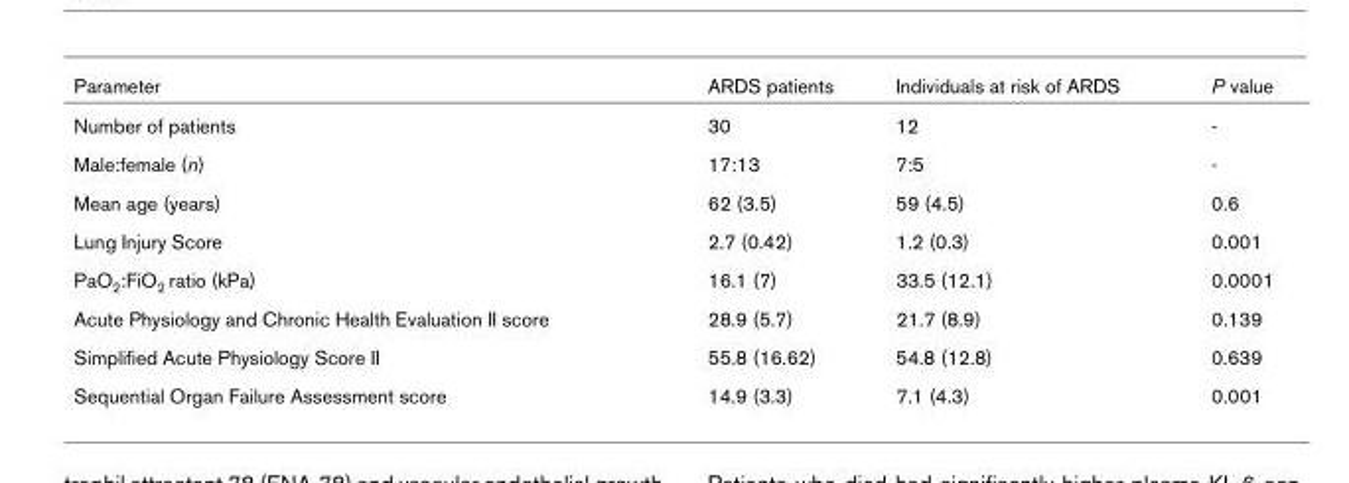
<table><thead><tr><td>Parameter</td><td>ARDS patients</td><td>Individuals at risk of ARDS</td><td>P value</td></tr></thead><tbody><tr><td>Number of patients</td><td>30</td><td>12</td><td>-</td></tr><tr><td>Male:female (n)</td><td>17:13</td><td>7:5</td><td>-</td></tr><tr><td>Mean age (years)</td><td>62 (3.5)</td><td>59 (4.5)</td><td>0.6</td></tr><tr><td>Lung Injury Score</td><td>2.7 (0.42)</td><td>1.2 (0.3)</td><td>0.001</td></tr><tr><td>PaO<sub>2</sub>:FiO<sub>2</sub> ratio (kPa)</td><td>16.1 (7)</td><td>33.5 (12.1)</td><td>0.0001</td></tr><tr><td>Acute Physiology and Chronic Health Evaluation II score</td><td>28.9 (5.7)</td><td>21.7 (8.9)</td><td>0.139</td></tr><tr><td>Simplified Acute Physiology Score II</td><td>55.8 (16.62)</td><td>54.8 (12.8)</td><td>0.639</td></tr><tr><td>Sequential Organ Failure Assessment score</td><td>14.9 (3.3)</td><td>7.1 (4.3)</td><td>0.001</td></tr></tbody></table>